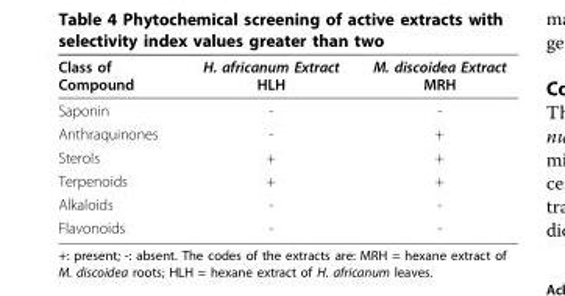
<table><thead><tr><td>Class of Compound</td><td>H. africanum Extract HLH</td><td>M. discoidea Extract MRH</td></tr></thead><tbody><tr><td>Saponin</td><td>-</td><td>-</td></tr><tr><td>Anthraquinones</td><td>-</td><td>+</td></tr><tr><td>Sterols</td><td>+</td><td>+</td></tr><tr><td>Terpenoids</td><td>+</td><td>+</td></tr><tr><td>Alkaloids</td><td>-</td><td>-</td></tr><tr><td>Flavonoids</td><td>-</td><td>-</td></tr></tbody></table>